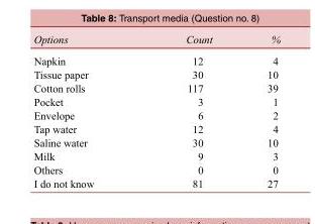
<table><tbody><tr><td>Options</td><td>Count</td><td>%</td></tr><tr><td>Napkin</td><td>12</td><td>4</td></tr><tr><td>Tissue paper</td><td>30</td><td>10</td></tr><tr><td>Cotton rolls</td><td>117</td><td>39</td></tr><tr><td>Pocket</td><td>3</td><td>1</td></tr><tr><td>Envelope</td><td>6</td><td>2</td></tr><tr><td>Tap water</td><td>12</td><td>4</td></tr><tr><td>Saline water</td><td>30</td><td>10</td></tr><tr><td>Milk</td><td>9</td><td>3</td></tr><tr><td>Others</td><td>0</td><td>0</td></tr><tr><td>I do not know</td><td>81</td><td>27</td></tr></tbody></table>